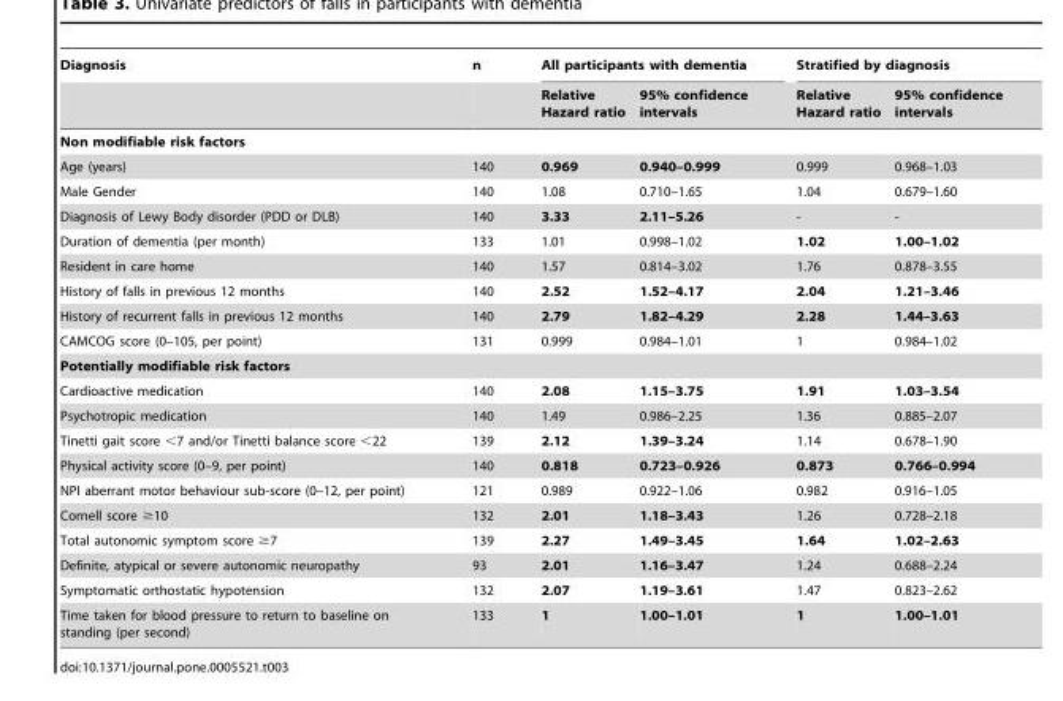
<table><thead><tr><td rowspan="2">Diagnosis</td><td rowspan="2">n</td><td colspan="2">All participants with dementia</td><td colspan="2">Stratified by diagnosis</td></tr><tr><td>Relative Hazard ratio</td><td>95% confidence intervals</td><td>Relative Hazard ratio</td><td>95% confidence intervals</td></tr></thead><tbody><tr><td colspan="6">Non modifiable risk factors</td></tr><tr><td>Age (years)</td><td>140</td><td>0.969</td><td>0.940–0.999</td><td>0.999</td><td>0.968–1.03</td></tr><tr><td>Male Gender</td><td>140</td><td>1.08</td><td>0.710–1.65</td><td>1.04</td><td>0.679–1.60</td></tr><tr><td>Diagnosis of Lewy Body disorder (PDD or DLB)</td><td>140</td><td>3.33</td><td>2.11–5.26</td><td>-</td><td>-</td></tr><tr><td>Duration of dementia (per month)</td><td>133</td><td>1.01</td><td>0.998–1.02</td><td>1.02</td><td>1.00–1.02</td></tr><tr><td>Resident in care home</td><td>140</td><td>1.57</td><td>0.814–3.02</td><td>1.76</td><td>0.878–3.55</td></tr><tr><td>History of falls in previous 12 months</td><td>140</td><td>2.52</td><td>1.52–4.17</td><td>2.04</td><td>1.21–3.46</td></tr><tr><td>History of recurrent falls in previous 12 months</td><td>140</td><td>2.79</td><td>1.82–4.29</td><td>2.28</td><td>1.44–3.63</td></tr><tr><td>CAMCOG score (0–105, per point)</td><td>131</td><td>0.999</td><td>0.984–1.01</td><td>1</td><td>0.984–1.02</td></tr><tr><td colspan="6">Potentially modifiable risk factors</td></tr><tr><td>Cardioactive medication</td><td>140</td><td>2.08</td><td>1.15–3.75</td><td>1.91</td><td>1.03–3.54</td></tr><tr><td>Psychotropic medication</td><td>140</td><td>1.49</td><td>0.986–2.25</td><td>1.36</td><td>0.885–2.07</td></tr><tr><td>Tinetti gait score &lt;7 and/or Tinetti balance score &lt;22</td><td>139</td><td>2.12</td><td>1.39–3.24</td><td>1.14</td><td>0.678–1.90</td></tr><tr><td>Physical activity score (0–9, per point)</td><td>140</td><td>0.818</td><td>0.723–0.926</td><td>0.873</td><td>0.766–0.994</td></tr><tr><td>NPI aberrant motor behaviour sub-score (0–12, per point)</td><td>121</td><td>0.989</td><td>0.922–1.06</td><td>0.982</td><td>0.916–1.05</td></tr><tr><td>Cornell score ≥10</td><td>132</td><td>2.01</td><td>1.18–3.43</td><td>1.26</td><td>0.728–2.18</td></tr><tr><td>Total autonomic symptom score ≥7</td><td>139</td><td>2.27</td><td>1.49–3.45</td><td>1.64</td><td>1.02–2.63</td></tr><tr><td>Definite, atypical or severe autonomic neuropathy</td><td>93</td><td>2.01</td><td>1.16–3.47</td><td>1.24</td><td>0.688–2.24</td></tr><tr><td>Symptomatic orthostatic hypotension</td><td>132</td><td>2.07</td><td>1.19–3.61</td><td>1.47</td><td>0.823–2.62</td></tr><tr><td>Time taken for blood pressure to return to baseline on standing (per second)</td><td>133</td><td>1</td><td>1.00–1.01</td><td>1</td><td>1.00–1.01</td></tr></tbody></table>